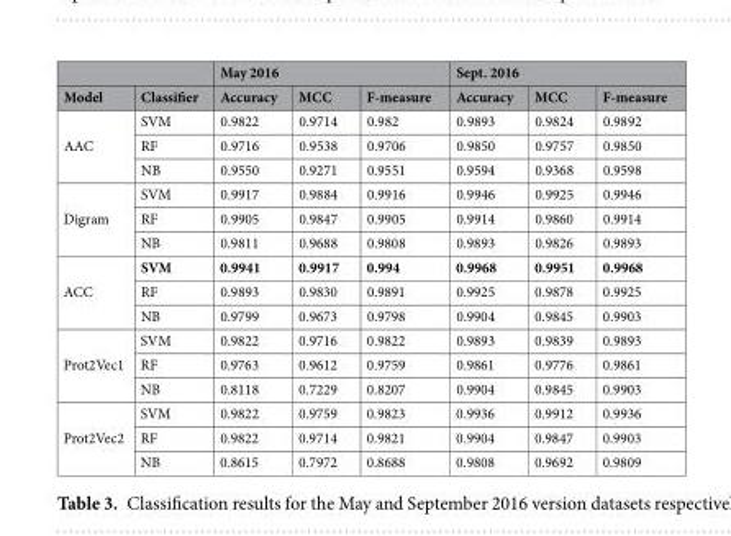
<table><thead><tr><td rowspan="2">Model</td><td rowspan="2">Classifier</td><td colspan="3">May 2016</td><td colspan="3">Sept. 2016</td></tr><tr><td>Accuracy</td><td>MCC</td><td>F-measure</td><td>Accuracy</td><td>MCC</td><td>F-measure</td></tr></thead><tbody><tr><td rowspan="3">AAC</td><td>SVM</td><td>0.9822</td><td>0.9714</td><td>0.982</td><td>0.9893</td><td>0.9824</td><td>0.9892</td></tr><tr><td>RF</td><td>0.9716</td><td>0.9538</td><td>0.9706</td><td>0.9850</td><td>0.9757</td><td>0.9850</td></tr><tr><td>NB</td><td>0.9550</td><td>0.9271</td><td>0.9551</td><td>0.9594</td><td>0.9368</td><td>0.9598</td></tr><tr><td rowspan="3">Digram</td><td>SVM</td><td>0.9917</td><td>0.9884</td><td>0.9916</td><td>0.9946</td><td>0.9925</td><td>0.9946</td></tr><tr><td>RF</td><td>0.9905</td><td>0.9847</td><td>0.9905</td><td>0.9914</td><td>0.9860</td><td>0.9914</td></tr><tr><td>NB</td><td>0.9811</td><td>0.9688</td><td>0.9808</td><td>0.9893</td><td>0.9826</td><td>0.9893</td></tr><tr><td rowspan="3">ACC</td><td>SVM</td><td>0.9941</td><td>0.9917</td><td>0.994</td><td>0.9968</td><td>0.9951</td><td>0.9968</td></tr><tr><td>RF</td><td>0.9893</td><td>0.9830</td><td>0.9891</td><td>0.9925</td><td>0.9878</td><td>0.9925</td></tr><tr><td>NB</td><td>0.9799</td><td>0.9673</td><td>0.9798</td><td>0.9904</td><td>0.9845</td><td>0.9903</td></tr><tr><td rowspan="3">Prot2Vec1</td><td>SVM</td><td>0.9822</td><td>0.9716</td><td>0.9822</td><td>0.9893</td><td>0.9839</td><td>0.9893</td></tr><tr><td>RF</td><td>0.9763</td><td>0.9612</td><td>0.9759</td><td>0.9861</td><td>0.9776</td><td>0.9861</td></tr><tr><td>NB</td><td>0.8118</td><td>0.7229</td><td>0.8207</td><td>0.9904</td><td>0.9845</td><td>0.9903</td></tr><tr><td rowspan="3">Prot2Vec2</td><td>SVM</td><td>0.9822</td><td>0.9759</td><td>0.9823</td><td>0.9936</td><td>0.9912</td><td>0.9936</td></tr><tr><td>RF</td><td>0.9822</td><td>0.9714</td><td>0.9821</td><td>0.9904</td><td>0.9847</td><td>0.9903</td></tr><tr><td>NB</td><td>0.8615</td><td>0.7972</td><td>0.8688</td><td>0.9808</td><td>0.9692</td><td>0.9809</td></tr></tbody></table>